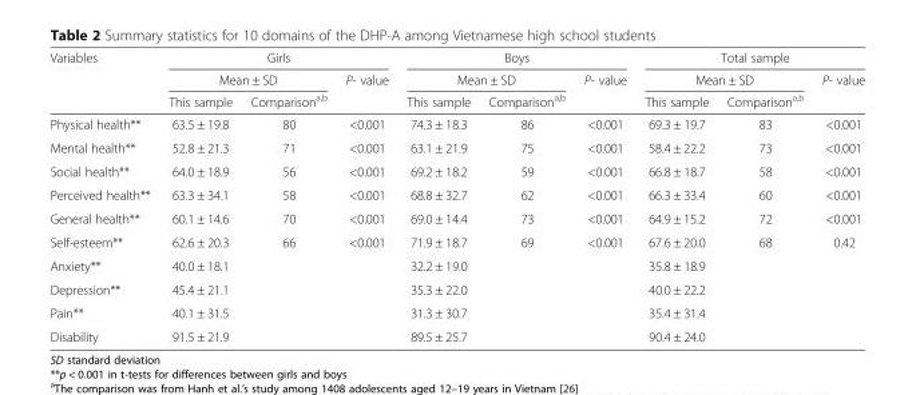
<table><thead><tr><td rowspan="3">Variables</td><td colspan="3">Girls</td><td colspan="3">Boys</td><td colspan="3">Total sample</td></tr><tr><td colspan="2">Mean ± SD</td><td rowspan="2">P- value</td><td colspan="2">Mean ± SD</td><td rowspan="2">P- value</td><td colspan="2">Mean ± SD</td><td rowspan="2">P- value</td></tr><tr><td>This sample</td><td>Comparison<sup>a,b</sup></td><td>This sample</td><td>Comparison<sup>a,b</sup></td><td>This sample</td><td>Comparison<sup>a,b</sup></td></tr></thead><tbody><tr><td>Physical health**</td><td>63.5 ± 19.8</td><td>80</td><td>&lt;0.001</td><td>74.3 ± 18.3</td><td>86</td><td>&lt;0.001</td><td>69.3 ± 19.7</td><td>83</td><td>&lt;0.001</td></tr><tr><td>Mental health**</td><td>52.8 ± 21.3</td><td>71</td><td>&lt;0.001</td><td>63.1 ± 21.9</td><td>75</td><td>&lt;0.001</td><td>58.4 ± 22.2</td><td>73</td><td>&lt;0.001</td></tr><tr><td>Social health**</td><td>64.0 ± 18.9</td><td>56</td><td>&lt;0.001</td><td>69.2 ± 18.2</td><td>59</td><td>&lt;0.001</td><td>66.8 ± 18.7</td><td>58</td><td>&lt;0.001</td></tr><tr><td>Perceived health**</td><td>63.3 ± 34.1</td><td>58</td><td>&lt;0.001</td><td>68.8 ± 32.7</td><td>62</td><td>&lt;0.001</td><td>66.3 ± 33.4</td><td>60</td><td>&lt;0.001</td></tr><tr><td>General health**</td><td>60.1 ± 14.6</td><td>70</td><td>&lt;0.001</td><td>69.0 ± 14.4</td><td>73</td><td>&lt;0.001</td><td>64.9 ± 15.2</td><td>72</td><td>&lt;0.001</td></tr><tr><td>Self-esteem**</td><td>62.6 ± 20.3</td><td>66</td><td>&lt;0.001</td><td>71.9 ± 18.7</td><td>69</td><td>&lt;0.001</td><td>67.6 ± 20.0</td><td>68</td><td>0.42</td></tr><tr><td>Anxiety**</td><td>40.0 ± 18.1</td><td></td><td></td><td>32.2 ± 19.0</td><td></td><td></td><td>35.8 ± 18.9</td><td></td><td></td></tr><tr><td>Depression**</td><td>45.4 ± 21.1</td><td></td><td></td><td>35.3 ± 22.0</td><td></td><td></td><td>40.0 ± 22.2</td><td></td><td></td></tr><tr><td>Pain**</td><td>40.1 ± 31.5</td><td></td><td></td><td>31.3 ± 30.7</td><td></td><td></td><td>35.4 ± 31.4</td><td></td><td></td></tr><tr><td>Disability</td><td>91.5 ± 21.9</td><td></td><td></td><td>89.5 ± 25.7</td><td></td><td></td><td>90.4 ± 24.0</td><td></td><td></td></tr></tbody></table>